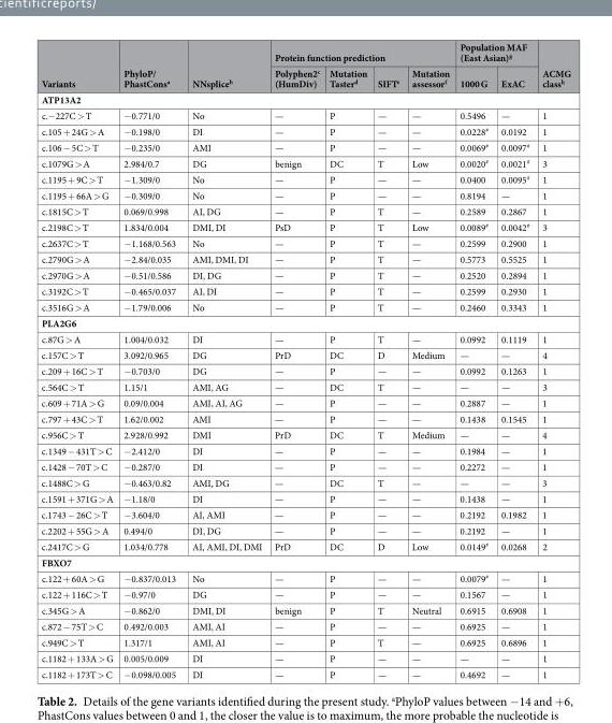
<table><thead><tr><td rowspan="2">Variants</td><td rowspan="2">PhyloP/ PhastCons<sup>a</sup></td><td rowspan="2">NNsplice<sup>b</sup></td><td colspan="4">Protein function prediction</td><td colspan="2">Population MAF (East Asian)<sup>g</sup></td><td rowspan="2">ACMG class<sup>h</sup></td></tr><tr><td>Polyphen2<sup>c</sup> (HumDiv)</td><td>Mutation Taster<sup>d</sup></td><td>SIFT<sup>e</sup></td><td>Mutation assessor<sup>f</sup></td><td>1000 G</td><td>ExAC</td></tr></thead><tbody><tr><td colspan="10">ATP13A2</td></tr><tr><td>c.−227C &gt; T</td><td>−0.771/0</td><td>No</td><td>—</td><td>P</td><td>—</td><td>—</td><td>0.5496</td><td>—</td><td>1</td></tr><tr><td>c.105 + 24G &gt; A</td><td>−0.198/0</td><td>DI</td><td>—</td><td>P</td><td>—</td><td>—</td><td>0.0228<sup>#</sup></td><td>0.0192</td><td>1</td></tr><tr><td>c.106 − 5C &gt; T</td><td>−0.235/0</td><td>AMI</td><td>—</td><td>P</td><td>—</td><td>—</td><td>0.0069<sup>#</sup></td><td>0.0097<sup>#</sup></td><td>1</td></tr><tr><td>c.1079G &gt; A</td><td>2.984/0.7</td><td>DG</td><td>benign</td><td>DC</td><td>T</td><td>Low</td><td>0.0020<sup>#</sup></td><td>0.0021<sup>#</sup></td><td>3</td></tr><tr><td>c.1195 + 9C &gt; T</td><td>−1.309/0</td><td>No</td><td>—</td><td>P</td><td>—</td><td>—</td><td>0.0400</td><td>0.0095<sup>#</sup></td><td>1</td></tr><tr><td>c.1195 + 66A &gt; G</td><td>−0.309/0</td><td>No</td><td>—</td><td>P</td><td>—</td><td>—</td><td>0.8194</td><td>—</td><td>1</td></tr><tr><td>c.1815C &gt; T</td><td>0.069/0.998</td><td>AI, DG</td><td>—</td><td>P</td><td>T</td><td>—</td><td>0.2589</td><td>0.2867</td><td>1</td></tr><tr><td>c.2198C &gt; T</td><td>1.834/0.004</td><td>DMI, DI</td><td>PsD</td><td>P</td><td>T</td><td>Low</td><td>0.0089<sup>#</sup></td><td>0.0042<sup>#</sup></td><td>3</td></tr><tr><td>c.2637C &gt; T</td><td>−1.168/0.563</td><td>No</td><td>—</td><td>P</td><td>T</td><td>—</td><td>0.2599</td><td>0.2900</td><td>1</td></tr><tr><td>c.2790G &gt; A</td><td>−2.84/0.035</td><td>AMI, DMI, DI</td><td>—</td><td>P</td><td>T</td><td>—</td><td>0.5773</td><td>0.5525</td><td>1</td></tr><tr><td>c.2970G &gt; A</td><td>−0.51/0.586</td><td>DI, DG</td><td>—</td><td>P</td><td>T</td><td>—</td><td>0.2520</td><td>0.2894</td><td>1</td></tr><tr><td>c.3192C &gt; T</td><td>−0.465/0.037</td><td>AI, DI</td><td>—</td><td>P</td><td>T</td><td>—</td><td>0.2599</td><td>0.2930</td><td>1</td></tr><tr><td>c.3516G &gt; A</td><td>−1.79/0.006</td><td>No</td><td>—</td><td>P</td><td>T</td><td>—</td><td>0.2460</td><td>0.3343</td><td>1</td></tr><tr><td colspan="10">PLA2G6</td></tr><tr><td>c.87G &gt; A</td><td>1.004/0.032</td><td>DI</td><td>—</td><td>P</td><td>T</td><td>—</td><td>0.0992</td><td>0.1119</td><td>1</td></tr><tr><td>c.157C &gt; T</td><td>3.092/0.965</td><td>DG</td><td>PrD</td><td>DC</td><td>D</td><td>Medium</td><td>—</td><td>—</td><td>4</td></tr><tr><td>c.209 + 16C &gt; T</td><td>−0.703/0</td><td>DG</td><td>—</td><td>P</td><td>—</td><td>—</td><td>0.0992</td><td>0.1263</td><td>1</td></tr><tr><td>c.564C &gt; T</td><td>1.15/1</td><td>AMI, AG</td><td>—</td><td>DC</td><td>T</td><td>—</td><td>—</td><td>—</td><td>3</td></tr><tr><td>c.609 + 71A &gt; G</td><td>0.09/0.004</td><td>AMI, AI, AG</td><td>—</td><td>P</td><td>—</td><td>—</td><td>0.2887</td><td>—</td><td>1</td></tr><tr><td>c.797 + 43C &gt; T</td><td>1.62/0.002</td><td>AMI</td><td>—</td><td>P</td><td>—</td><td>—</td><td>0.1438</td><td>0.1545</td><td>1</td></tr><tr><td>c.956C &gt; T</td><td>2.928/0.992</td><td>DMI</td><td>PrD</td><td>DC</td><td>T</td><td>Medium</td><td>—</td><td>—</td><td>4</td></tr><tr><td>c.1349 − 431T &gt; C</td><td>−2.412/0</td><td>DI</td><td>—</td><td>P</td><td>—</td><td>—</td><td>0.1984</td><td>—</td><td>1</td></tr><tr><td>c.1428 − 70T &gt; C</td><td>−0.287/0</td><td>DI</td><td>—</td><td>P</td><td>—</td><td>—</td><td>0.2272</td><td>—</td><td>1</td></tr><tr><td>c.1488C &gt; G</td><td>−0.463/0.82</td><td>AMI, DG</td><td>—</td><td>DC</td><td>T</td><td>—</td><td>—</td><td>—</td><td>3</td></tr><tr><td>c.1591 + 371G &gt; A</td><td>−1.18/0</td><td>DI</td><td>—</td><td>P</td><td>—</td><td>—</td><td>0.1438</td><td>—</td><td>1</td></tr><tr><td>c.1743 − 26C &gt; T</td><td>−3.604/0</td><td>AI, AMI</td><td>—</td><td>P</td><td>—</td><td>—</td><td>0.2192</td><td>0.1982</td><td>1</td></tr><tr><td>c.2202 + 55G &gt; A</td><td>0.494/0</td><td>DI, DG</td><td>—</td><td>P</td><td>—</td><td>—</td><td>0.2192</td><td>—</td><td>1</td></tr><tr><td>c.2417C &gt; G</td><td>1.034/0.778</td><td>AI, AMI, DI, DMI</td><td>PrD</td><td>DC</td><td>D</td><td>Low</td><td>0.0149<sup>#</sup></td><td>0.0268</td><td>2</td></tr><tr><td colspan="10">FBXO7</td></tr><tr><td>c.122 + 60A &gt; G</td><td>−0.837/0.013</td><td>No</td><td>—</td><td>P</td><td>—</td><td>—</td><td>0.0079<sup>#</sup></td><td>—</td><td>1</td></tr><tr><td>c.122 + 116C &gt; T</td><td>−0.97/0</td><td>DG</td><td>—</td><td>P</td><td>—</td><td>—</td><td>0.1567</td><td>—</td><td>1</td></tr><tr><td>c.345G &gt; A</td><td>−0.862/0</td><td>DMI, DI</td><td>benign</td><td>P</td><td>T</td><td>Neutral</td><td>0.6915</td><td>0.6908</td><td>1</td></tr><tr><td>c.872 − 75T &gt; C</td><td>0.492/0.003</td><td>AMI, AI</td><td>—</td><td>P</td><td>—</td><td>—</td><td>0.6925</td><td>—</td><td>1</td></tr><tr><td>c.949C &gt; T</td><td>1.317/1</td><td>AMI, AI</td><td>—</td><td>P</td><td>T</td><td>—</td><td>0.6925</td><td>0.6896</td><td>1</td></tr><tr><td>c.1182 + 133A &gt; G</td><td>0.005/0.009</td><td>DI</td><td>—</td><td>P</td><td>—</td><td>—</td><td>—</td><td>—</td><td>1</td></tr><tr><td>c.1182 + 173T &gt; C</td><td>−0.098/0.005</td><td>DI</td><td>—</td><td>P</td><td>—</td><td>—</td><td>0.4692</td><td>—</td><td>1</td></tr></tbody></table>